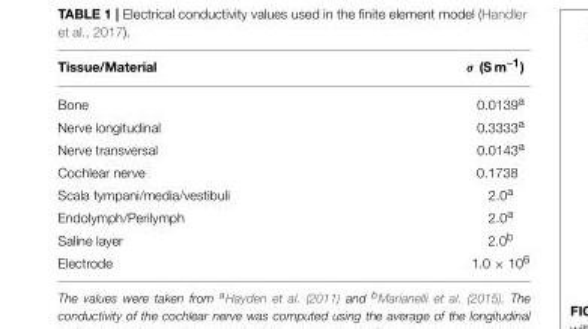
<table><thead><tr><td>Tissue/Material</td><td>σ (S m−1)</td></tr></thead><tbody><tr><td>Bone</td><td>0.0139<sup>a</sup></td></tr><tr><td>Nerve longitudinal</td><td>0.3333<sup>a</sup></td></tr><tr><td>Nerve transversal</td><td>0.0143<sup>a</sup></td></tr><tr><td>Cochlear nerve</td><td>0.1738</td></tr><tr><td>Scala tympani/media/vestibuli</td><td>2.0<sup>a</sup></td></tr><tr><td>Endolymph/Perilymph</td><td>2.0<sup>a</sup></td></tr><tr><td>Saline layer</td><td>2.0<sup>b</sup></td></tr><tr><td>Electrode</td><td>1.0 × 10<sup>6</sup></td></tr></tbody></table>